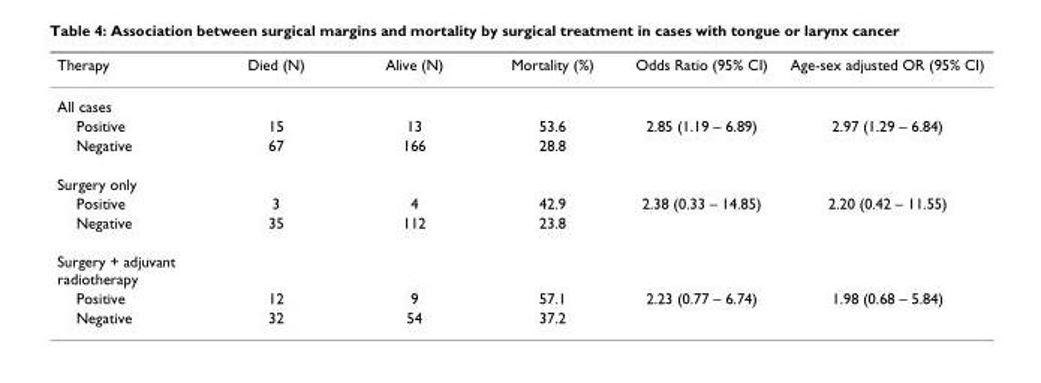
<table><thead><tr><td>Therapy</td><td>Died (N)</td><td>Alive (N)</td><td>Mortality (%)</td><td>Odds Ratio (95% CI)</td><td>Age-sex adjusted OR (95% CI)</td></tr></thead><tbody><tr><td colspan="6">All cases</td></tr><tr><td>Positive</td><td>15</td><td>13</td><td>53.6</td><td>2.85 (1.19 – 6.89)</td><td>2.97 (1.29 – 6.84)</td></tr><tr><td>Negative</td><td>67</td><td>166</td><td>28.8</td><td></td><td></td></tr><tr><td colspan="6">Surgery only</td></tr><tr><td>Positive</td><td>3</td><td>4</td><td>42.9</td><td>2.38 (0.33 – 14.85)</td><td>2.20 (0.42 – 11.55)</td></tr><tr><td>Negative</td><td>35</td><td>112</td><td>23.8</td><td></td><td></td></tr><tr><td colspan="6">Surgery + adjuvant radiotherapy</td></tr><tr><td>Positive</td><td>12</td><td>9</td><td>57.1</td><td>2.23 (0.77 – 6.74)</td><td>1.98 (0.68 – 5.84)</td></tr><tr><td>Negative</td><td>32</td><td>54</td><td>37.2</td><td></td><td></td></tr></tbody></table>